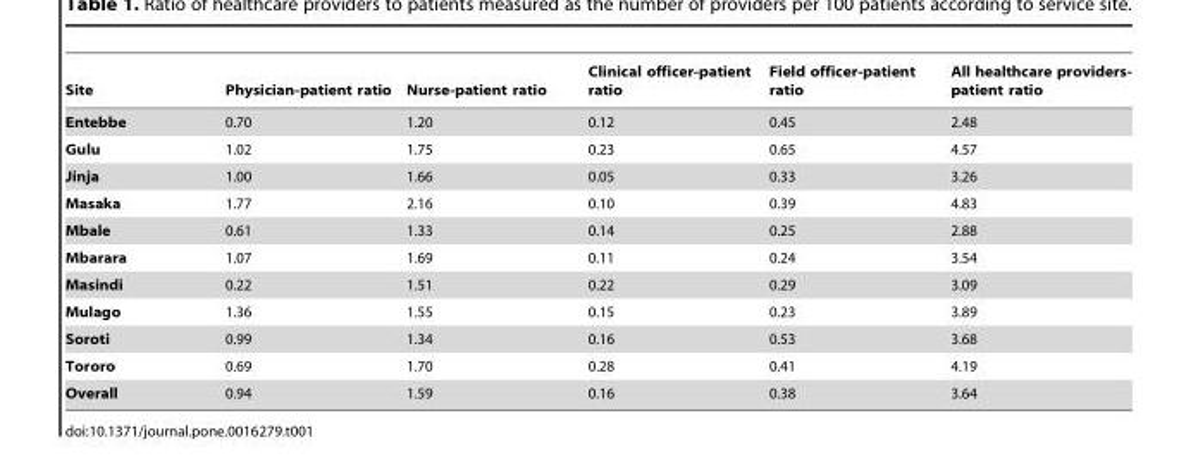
<table><thead><tr><td>Site</td><td>Physician-patient ratio</td><td>Nurse-patient ratio</td><td>Clinical officer-patient ratio</td><td>Field officer-patient ratio</td><td>All healthcare providers- patient ratio</td></tr></thead><tbody><tr><td>Entebbe</td><td>0.70</td><td>1.20</td><td>0.12</td><td>0.45</td><td>2.48</td></tr><tr><td>Gulu</td><td>1.02</td><td>1.75</td><td>0.23</td><td>0.65</td><td>4.57</td></tr><tr><td>Jinja</td><td>1.00</td><td>1.66</td><td>0.05</td><td>0.33</td><td>3.26</td></tr><tr><td>Masaka</td><td>1.77</td><td>2.16</td><td>0.10</td><td>0.39</td><td>4.83</td></tr><tr><td>Mbale</td><td>0.61</td><td>1.33</td><td>0.14</td><td>0.25</td><td>2.88</td></tr><tr><td>Mbarara</td><td>1.07</td><td>1.69</td><td>0.11</td><td>0.24</td><td>3.54</td></tr><tr><td>Masindi</td><td>0.22</td><td>1.51</td><td>0.22</td><td>0.29</td><td>3.09</td></tr><tr><td>Mulago</td><td>1.36</td><td>1.55</td><td>0.15</td><td>0.23</td><td>3.89</td></tr><tr><td>Soroti</td><td>0.99</td><td>1.34</td><td>0.16</td><td>0.53</td><td>3.68</td></tr><tr><td>Tororo</td><td>0.69</td><td>1.70</td><td>0.28</td><td>0.41</td><td>4.19</td></tr><tr><td>Overall</td><td>0.94</td><td>1.59</td><td>0.16</td><td>0.38</td><td>3.64</td></tr></tbody></table>